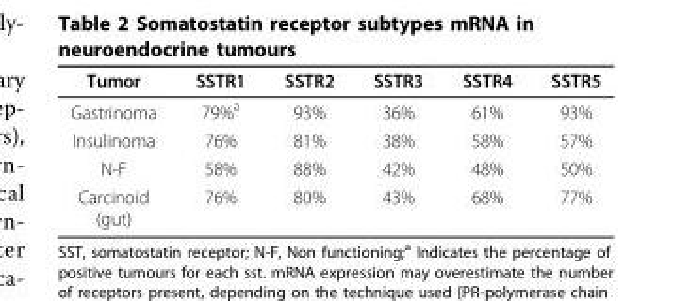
<table><thead><tr><td>Tumor</td><td>SSTR1</td><td>SSTR2</td><td>SSTR3</td><td>SSTR4</td><td>SSTR5</td></tr></thead><tbody><tr><td>Gastrinoma</td><td>79%<sup>a</sup></td><td>93%</td><td>36%</td><td>61%</td><td>93%</td></tr><tr><td>Insulinoma</td><td>76%</td><td>81%</td><td>38%</td><td>58%</td><td>57%</td></tr><tr><td>N-F</td><td>58%</td><td>88%</td><td>42%</td><td>48%</td><td>50%</td></tr><tr><td>Carcinoid (gut)</td><td>76%</td><td>80%</td><td>43%</td><td>68%</td><td>77%</td></tr></tbody></table>